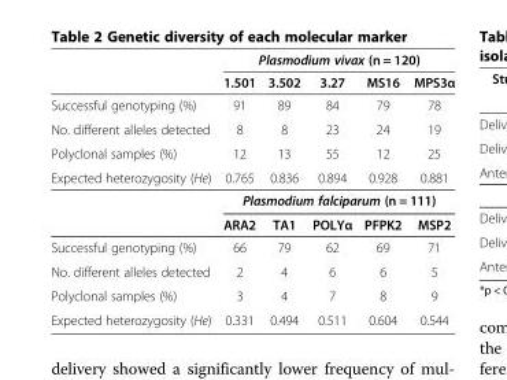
<table><thead><tr><td rowspan="2"></td><td colspan="5">Plasmodium vivax (n = 120)</td></tr><tr><td>1.501</td><td>3.502</td><td>3.27</td><td>MS16</td><td>MPS3α</td></tr></thead><tbody><tr><td>Successful genotyping (%)</td><td>91</td><td>89</td><td>84</td><td>79</td><td>78</td></tr><tr><td>No. different alleles detected</td><td>8</td><td>8</td><td>23</td><td>24</td><td>19</td></tr><tr><td>Polyclonal samples (%)</td><td>12</td><td>13</td><td>55</td><td>12</td><td>25</td></tr><tr><td rowspan="3">Expected heterozygosity (He)</td><td>0.765</td><td>0.836</td><td>0.894</td><td>0.928</td><td>0.881</td></tr><tr><td colspan="5">Plasmodium falciparum (n = 111)</td></tr><tr><td>ARA2</td><td>TA1</td><td>POLYα</td><td>PFPK2</td><td>MSP2</td></tr><tr><td>Successful genotyping (%)</td><td>66</td><td>79</td><td>62</td><td>69</td><td>71</td></tr><tr><td>No. different alleles detected</td><td>2</td><td>4</td><td>6</td><td>6</td><td>5</td></tr><tr><td>Polyclonal samples (%)</td><td>3</td><td>4</td><td>7</td><td>8</td><td>9</td></tr><tr><td>Expected heterozygosity (He)</td><td>0.331</td><td>0.494</td><td>0.511</td><td>0.604</td><td>0.544</td></tr></tbody></table>